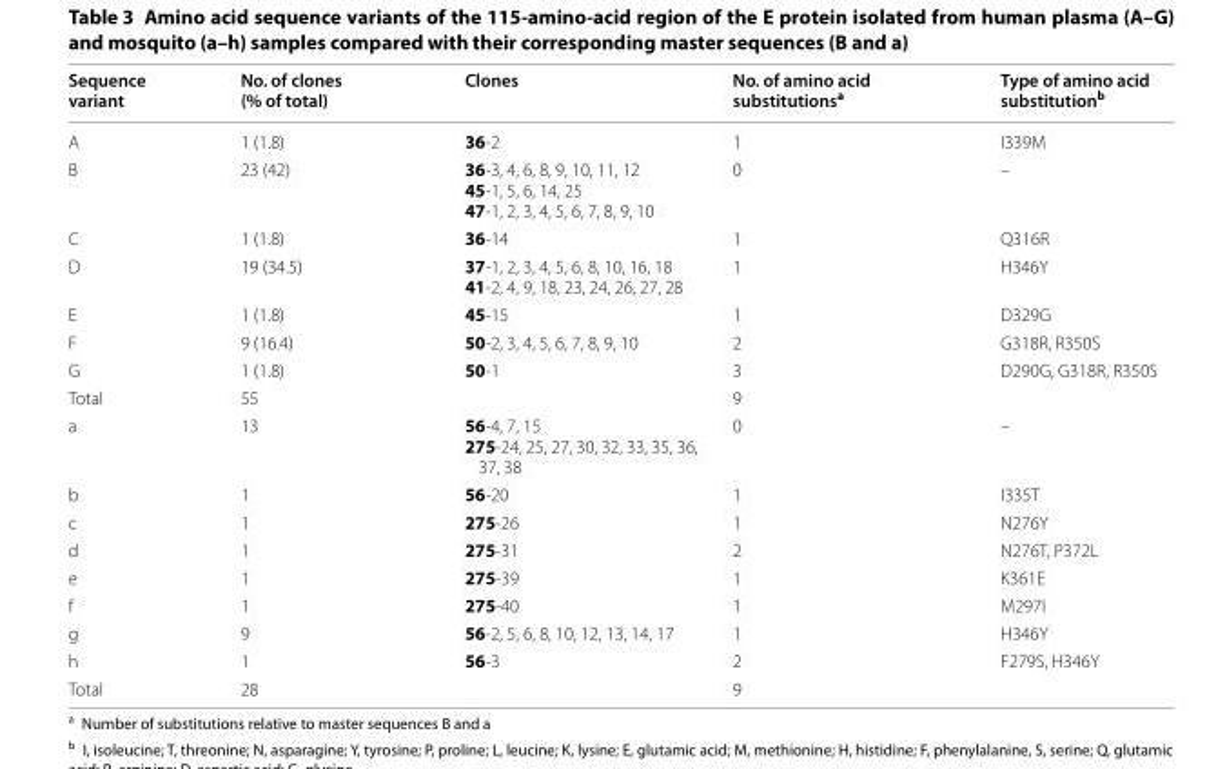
<table><thead><tr><td>Sequence variant</td><td>No. of clones (% of total)</td><td>Clones</td><td>No. of amino acid substitutions<sup>a</sup></td><td>Type of amino acid substitution<sup>b</sup></td></tr></thead><tbody><tr><td>A</td><td>1 (1.8)</td><td>36-2</td><td>1</td><td>I339M</td></tr><tr><td>B</td><td>23 (42)</td><td>36-3, 4, 6, 8, 9, 10, 11, 12 45-1, 5, 6, 14, 25 47-1, 2, 3, 4, 5, 6, 7, 8, 9, 10</td><td>0</td><td>–</td></tr><tr><td>C</td><td>1 (1.8)</td><td>36-14</td><td>1</td><td>Q316R</td></tr><tr><td>D</td><td>19 (34.5)</td><td>37-1, 2, 3, 4, 5, 6, 8, 10, 16, 18 41-2, 4, 9, 18, 23, 24, 26, 27, 28</td><td>1</td><td>H346Y</td></tr><tr><td>E</td><td>1 (1.8)</td><td>45-15</td><td>1</td><td>D329G</td></tr><tr><td>F</td><td>9 (16.4)</td><td>50-2, 3, 4, 5, 6, 7, 8, 9, 10</td><td>2</td><td>G318R, R350S</td></tr><tr><td>G</td><td>1 (1.8)</td><td>50-1</td><td>3</td><td>D290G, G318R, R350S</td></tr><tr><td>Total</td><td>55</td><td></td><td>9</td><td></td></tr><tr><td>a</td><td>13</td><td>56-4, 7, 15 275-24, 25, 27, 30, 32, 33, 35, 36, 37, 38</td><td>0</td><td>–</td></tr><tr><td>b</td><td>1</td><td>56-20</td><td>1</td><td>I335T</td></tr><tr><td>c</td><td>1</td><td>275-26</td><td>1</td><td>N276Y</td></tr><tr><td>d</td><td>1</td><td>275-31</td><td>2</td><td>N276T, P372L</td></tr><tr><td>e</td><td>1</td><td>275-39</td><td>1</td><td>K361E</td></tr><tr><td>f</td><td>1</td><td>275-40</td><td>1</td><td>M297I</td></tr><tr><td>g</td><td>9</td><td>56-2, 5, 6, 8, 10, 12, 13, 14, 17</td><td>1</td><td>H346Y</td></tr><tr><td>h</td><td>1</td><td>56-3</td><td>2</td><td>F279S, H346Y</td></tr><tr><td>Total</td><td>28</td><td></td><td>9</td><td></td></tr></tbody></table>